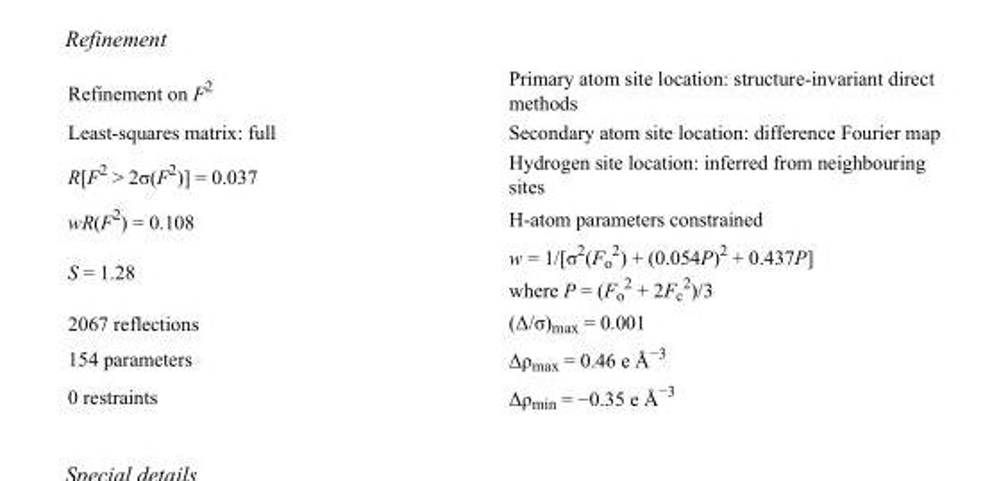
<table><tbody><tr><td>Refinement on F<sup>2</sup></td><td>Primary atom site location: structure-invariant direct methods</td></tr><tr><td>Least-squares matrix: full</td><td>Secondary atom site location: difference Fourier map</td></tr><tr><td>R[F<sup>2</sup> &gt; 2σ(F<sup>2</sup>)] = 0.037</td><td>Hydrogen site location: inferred from neighbouring sites</td></tr><tr><td>wR(F<sup>2</sup>) = 0.108</td><td>H-atom parameters constrained</td></tr><tr><td>S = 1.28</td><td>w = 1/[σ<sup>2</sup>(F<sub>o</sub> <sup>2</sup>) + (0.054P)<sup>2</sup> + 0.437P] where P = (F<sub>o</sub> <sup>2</sup> + 2F<sub>c</sub> <sup>2</sup>)/3</td></tr><tr><td>2067 reflections</td><td>(Δ/σ)<sub>max</sub> = 0.001</td></tr><tr><td>154 parameters</td><td>Δρ<sub>max</sub> = 0.46 e Å<sup>−3</sup></td></tr><tr><td>0 restraints</td><td>Δρ<sub>min</sub> = −0.35 e Å<sup>−3</sup></td></tr></tbody></table>